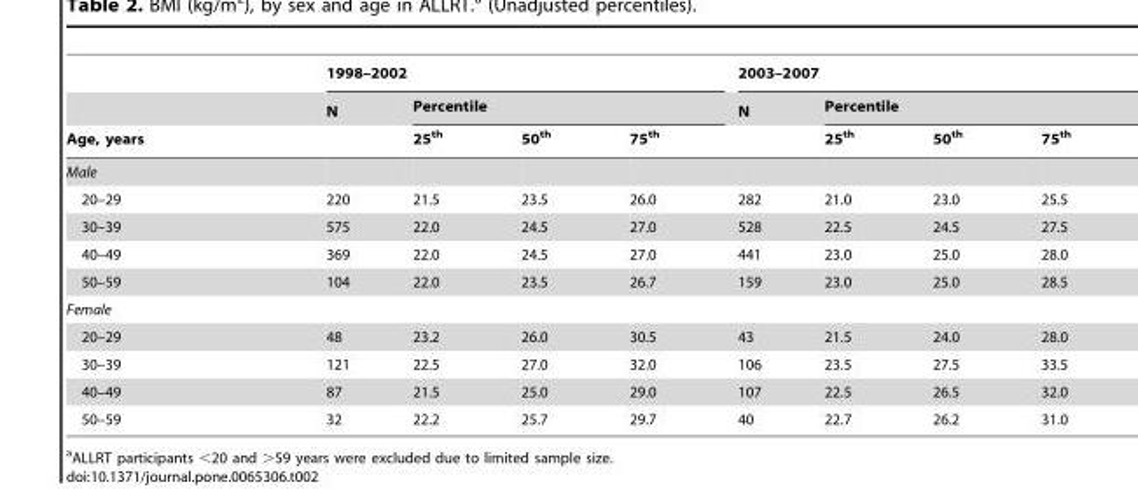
<table><thead><tr><td rowspan="3">Age, years</td><td colspan="4">1998–2002</td><td colspan="4">2003–2007</td></tr><tr><td rowspan="2">N</td><td colspan="3">Percentile</td><td rowspan="2">N</td><td colspan="3">Percentile</td></tr><tr><td>25<sup>th</sup></td><td>50<sup>th</sup></td><td>75<sup>th</sup></td><td>25<sup>th</sup></td><td>50<sup>th</sup></td><td>75<sup>th</sup></td></tr></thead><tbody><tr><td colspan="9">Male</td></tr><tr><td>20–29</td><td>220</td><td>21.5</td><td>23.5</td><td>26.0</td><td>282</td><td>21.0</td><td>23.0</td><td>25.5</td></tr><tr><td>30–39</td><td>575</td><td>22.0</td><td>24.5</td><td>27.0</td><td>528</td><td>22.5</td><td>24.5</td><td>27.5</td></tr><tr><td>40–49</td><td>369</td><td>22.0</td><td>24.5</td><td>27.0</td><td>441</td><td>23.0</td><td>25.0</td><td>28.0</td></tr><tr><td>50–59</td><td>104</td><td>22.0</td><td>23.5</td><td>26.7</td><td>159</td><td>23.0</td><td>25.0</td><td>28.5</td></tr><tr><td colspan="9">Female</td></tr><tr><td>20–29</td><td>48</td><td>23.2</td><td>26.0</td><td>30.5</td><td>43</td><td>21.5</td><td>24.0</td><td>28.0</td></tr><tr><td>30–39</td><td>121</td><td>22.5</td><td>27.0</td><td>32.0</td><td>106</td><td>23.5</td><td>27.5</td><td>33.5</td></tr><tr><td>40–49</td><td>87</td><td>21.5</td><td>25.0</td><td>29.0</td><td>107</td><td>22.5</td><td>26.5</td><td>32.0</td></tr><tr><td>50–59</td><td>32</td><td>22.2</td><td>25.7</td><td>29.7</td><td>40</td><td>22.7</td><td>26.2</td><td>31.0</td></tr></tbody></table>